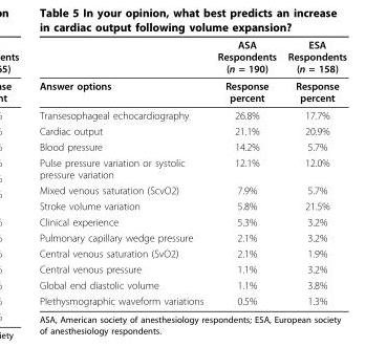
<table><thead><tr><td></td><td>ASA Respondents (n = 190)</td><td>ESA Respondents (n = 158)</td></tr></thead><tbody><tr><td>Answer options</td><td>Response percent</td><td>Response percent</td></tr><tr><td>Transesophageal echocardiography</td><td>26.8%</td><td>17.7%</td></tr><tr><td>Cardiac output</td><td>21.1%</td><td>20.9%</td></tr><tr><td>Blood pressure</td><td>14.2%</td><td>5.7%</td></tr><tr><td>Pulse pressure variation or systolic pressure variation</td><td>12.1%</td><td>12.0%</td></tr><tr><td>Mixed venous saturation (ScvO2)</td><td>7.9%</td><td>5.7%</td></tr><tr><td>Stroke volume variation</td><td>5.8%</td><td>21.5%</td></tr><tr><td>Clinical experience</td><td>5.3%</td><td>3.2%</td></tr><tr><td>Pulmonary capillary wedge pressure</td><td>2.1%</td><td>3.2%</td></tr><tr><td>Central venous saturation (SvO2)</td><td>2.1%</td><td>1.9%</td></tr><tr><td>Central venous pressure</td><td>1.1%</td><td>3.2%</td></tr><tr><td>Global end diastolic volume</td><td>1.1%</td><td>3.8%</td></tr><tr><td>Plethysmographic waveform variations</td><td>0.5%</td><td>1.3%</td></tr></tbody></table>